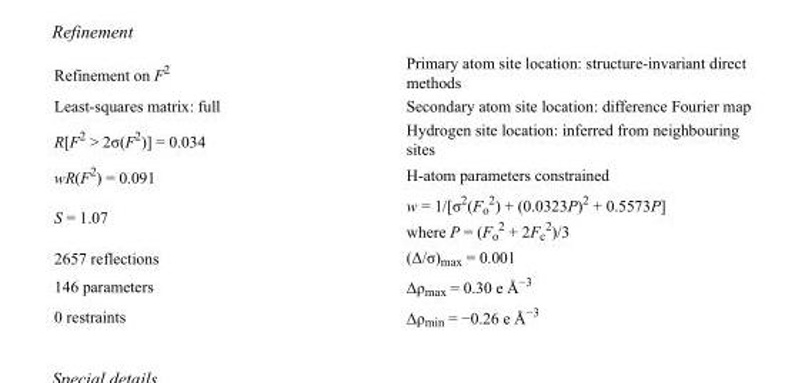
<table><tbody><tr><td>Refinement on F<sup>2</sup></td><td>Primary atom site location: structure-invariant direct methods</td></tr><tr><td>Least-squares matrix: full</td><td>Secondary atom site location: difference Fourier map</td></tr><tr><td>R[F<sup>2</sup> &gt; 2σ(F<sup>2</sup>)] = 0.034</td><td>Hydrogen site location: inferred from neighbouring sites</td></tr><tr><td>wR(F<sup>2</sup>) = 0.091</td><td>H-atom parameters constrained</td></tr><tr><td>S = 1.07</td><td>w = 1/[σ<sup>2</sup>(F<sub>o</sub> <sup>2</sup>) + (0.0323P)<sup>2</sup> + 0.5573P] where P = (F<sub>o</sub> <sup>2</sup> + 2F<sub>c</sub> <sup>2</sup>)/3</td></tr><tr><td>2657 reflections</td><td>(Δ/σ)<sub>max</sub> = 0.001</td></tr><tr><td>146 parameters</td><td>Δρ<sub>max</sub> = 0.30 e Å<sup>−3</sup></td></tr><tr><td>0 restraints</td><td>Δρ<sub>min</sub> = −0.26 e Å<sup>−3</sup></td></tr></tbody></table>